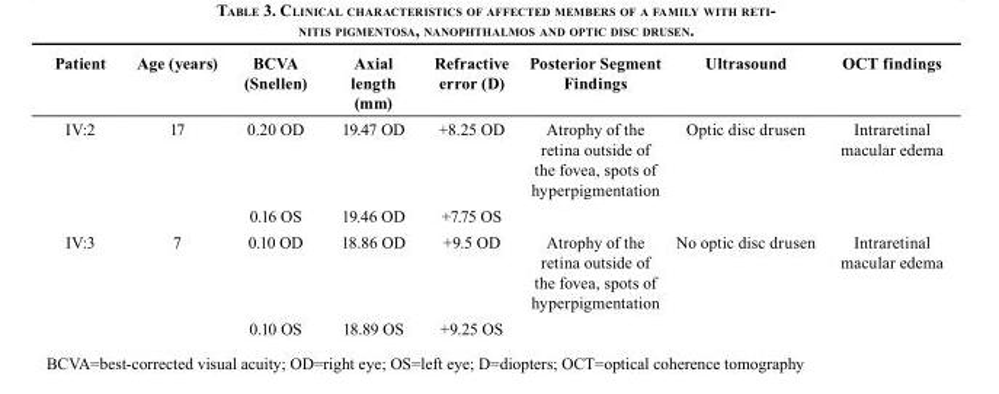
<table><thead><tr><td>Patient</td><td>Age (years)</td><td>BCVA (Snellen)</td><td>Axial length (mm)</td><td>Refractive error (D)</td><td>Posterior Segment Findings</td><td>Ultrasound</td><td>OCT findings</td></tr></thead><tbody><tr><td rowspan="2">IV:2</td><td>17</td><td>0.20 OD</td><td>19.47 OD</td><td>+8.25 OD</td><td>Atrophy of the retina outside of the fovea, spots of hyperpigmentation</td><td>Optic disc drusen</td><td>Intraretinal macular edema</td></tr><tr><td></td><td>0.16 OS</td><td>19.46 OD</td><td>+7.75 OS</td><td></td><td></td><td></td></tr><tr><td rowspan="2">IV:3</td><td>7</td><td>0.10 OD</td><td>18.86 OD</td><td>+9.5 OD</td><td>Atrophy of the retina outside of the fovea, spots of hyperpigmentation</td><td>No optic disc drusen</td><td>Intraretinal macular edema</td></tr><tr><td></td><td>0.10 OS</td><td>18.89 OS</td><td>+9.25 OS</td><td></td><td></td><td></td></tr></tbody></table>